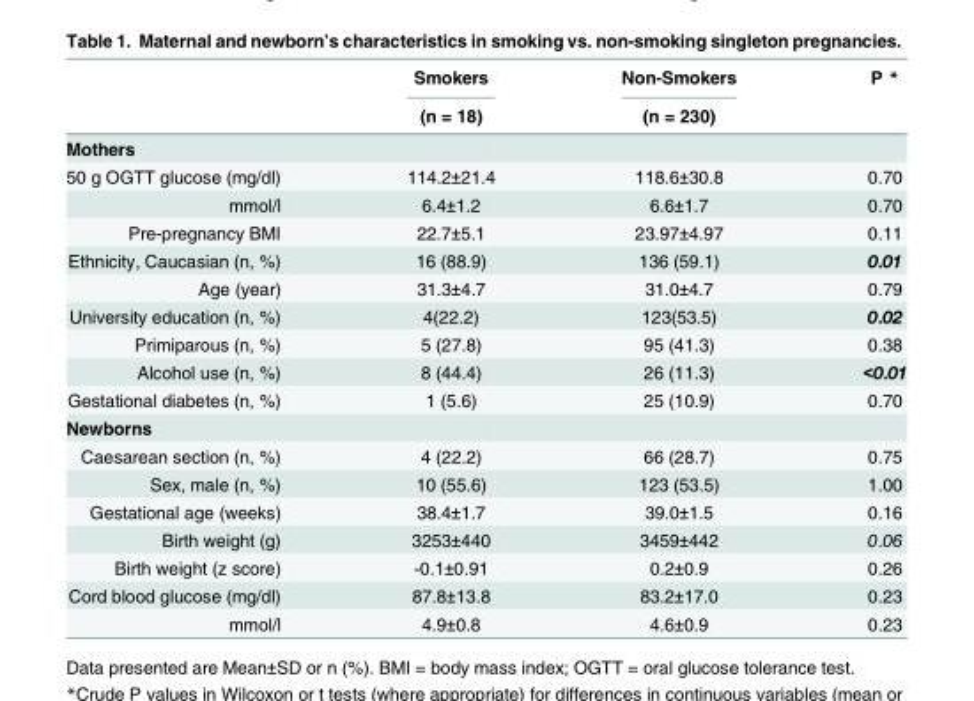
<table><thead><tr><td rowspan="2"></td><td rowspan="2">Smokers (n = 18)</td><td rowspan="2">Non-Smokers (n = 230)</td><td rowspan="2">P *</td></tr><tr></tr></thead><tbody><tr><td colspan="4">Mothers</td></tr><tr><td>50 g OGTT glucose (mg/dl)</td><td>114.2±21.4</td><td>118.6±30.8</td><td>0.70</td></tr><tr><td>mmol/l</td><td>6.4±1.2</td><td>6.6±1.7</td><td>0.70</td></tr><tr><td>Pre-pregnancy BMI</td><td>22.7±5.1</td><td>23.97±4.97</td><td>0.11</td></tr><tr><td>Ethnicity, Caucasian (n, %)</td><td>16 (88.9)</td><td>136 (59.1)</td><td>0.01</td></tr><tr><td>Age (year)</td><td>31.3±4.7</td><td>31.0±4.7</td><td>0.79</td></tr><tr><td>University education (n, %)</td><td>4(22.2)</td><td>123(53.5)</td><td>0.02</td></tr><tr><td>Primiparous (n, %)</td><td>5 (27.8)</td><td>95 (41.3)</td><td>0.38</td></tr><tr><td>Alcohol use (n, %)</td><td>8 (44.4)</td><td>26 (11.3)</td><td>&lt;0.01</td></tr><tr><td>Gestational diabetes (n, %)</td><td>1 (5.6)</td><td>25 (10.9)</td><td>0.70</td></tr><tr><td colspan="4">Newborns</td></tr><tr><td>Caesarean section (n, %)</td><td>4 (22.2)</td><td>66 (28.7)</td><td>0.75</td></tr><tr><td>Sex, male (n, %)</td><td>10 (55.6)</td><td>123 (53.5)</td><td>1.00</td></tr><tr><td>Gestational age (weeks)</td><td>38.4±1.7</td><td>39.0±1.5</td><td>0.16</td></tr><tr><td>Birth weight (g)</td><td>3253±440</td><td>3459±442</td><td>0.06</td></tr><tr><td>Birth weight (z score)</td><td>-0.1±0.91</td><td>0.2±0.9</td><td>0.26</td></tr><tr><td>Cord blood glucose (mg/dl)</td><td>87.8±13.8</td><td>83.2±17.0</td><td>0.23</td></tr><tr><td>mmol/l</td><td>4.9±0.8</td><td>4.6±0.9</td><td>0.23</td></tr></tbody></table>